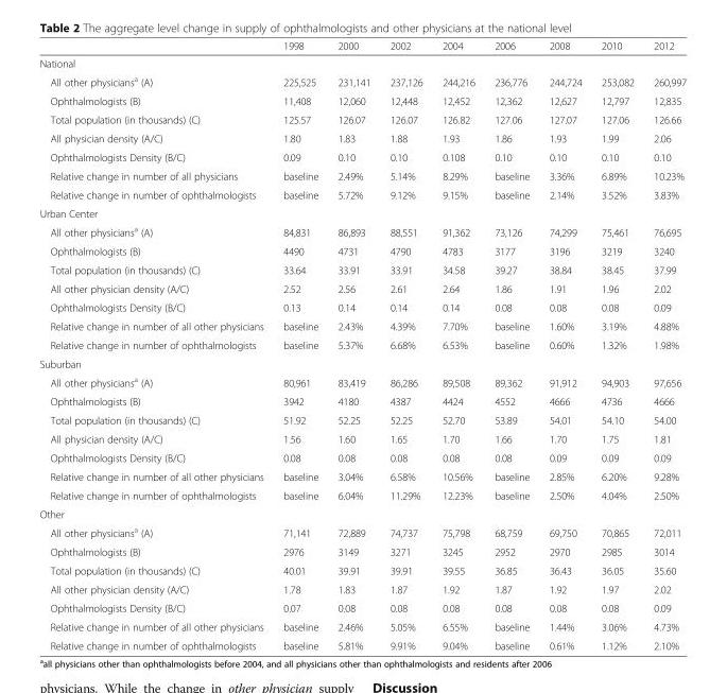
<table><thead><tr><td></td><td>1998</td><td>2000</td><td>2002</td><td>2004</td><td>2006</td><td>2008</td><td>2010</td><td>2012</td></tr></thead><tbody><tr><td colspan="9">National</td></tr><tr><td>All other physicians<sup>a</sup> (A)</td><td>225,525</td><td>231,141</td><td>237,126</td><td>244,216</td><td>236,776</td><td>244,724</td><td>253,082</td><td>260,997</td></tr><tr><td>Ophthalmologists (B)</td><td>11,408</td><td>12,060</td><td>12,448</td><td>12,452</td><td>12,362</td><td>12,627</td><td>12,797</td><td>12,835</td></tr><tr><td>Total population (in thousands) (C)</td><td>125.57</td><td>126.07</td><td>126.07</td><td>126.82</td><td>127.06</td><td>127.07</td><td>127.06</td><td>126.66</td></tr><tr><td>All physician density (A/C)</td><td>1.80</td><td>1.83</td><td>1.88</td><td>1.93</td><td>1.86</td><td>1.93</td><td>1.99</td><td>2.06</td></tr><tr><td>Ophthalmologists Density (B/C)</td><td>0.09</td><td>0.10</td><td>0.10</td><td>0.108</td><td>0.10</td><td>0.10</td><td>0.10</td><td>0.10</td></tr><tr><td>Relative change in number of all physicians</td><td>baseline</td><td>2.49%</td><td>5.14%</td><td>8.29%</td><td>baseline</td><td>3.36%</td><td>6.89%</td><td>10.23%</td></tr><tr><td>Relative change in number of ophthalmologists</td><td>baseline</td><td>5.72%</td><td>9.12%</td><td>9.15%</td><td>baseline</td><td>2.14%</td><td>3.52%</td><td>3.83%</td></tr><tr><td colspan="9">Urban Center</td></tr><tr><td>All other physicians<sup>a</sup> (A)</td><td>84,831</td><td>86,893</td><td>88,551</td><td>91,362</td><td>73,126</td><td>74,299</td><td>75,461</td><td>76,695</td></tr><tr><td>Ophthalmologists (B)</td><td>4490</td><td>4731</td><td>4790</td><td>4783</td><td>3177</td><td>3196</td><td>3219</td><td>3240</td></tr><tr><td>Total population (in thousands) (C)</td><td>33.64</td><td>33.91</td><td>33.91</td><td>34.58</td><td>39.27</td><td>38.84</td><td>38.45</td><td>37.99</td></tr><tr><td>All other physician density (A/C)</td><td>2.52</td><td>2.56</td><td>2.61</td><td>2.64</td><td>1.86</td><td>1.91</td><td>1.96</td><td>2.02</td></tr><tr><td>Ophthalmologists Density (B/C)</td><td>0.13</td><td>0.14</td><td>0.14</td><td>0.14</td><td>0.08</td><td>0.08</td><td>0.08</td><td>0.09</td></tr><tr><td>Relative change in number of all other physicians</td><td>baseline</td><td>2.43%</td><td>4.39%</td><td>7.70%</td><td>baseline</td><td>1.60%</td><td>3.19%</td><td>4.88%</td></tr><tr><td>Relative change in number of ophthalmologists</td><td>baseline</td><td>5.37%</td><td>6.68%</td><td>6.53%</td><td>baseline</td><td>0.60%</td><td>1.32%</td><td>1.98%</td></tr><tr><td colspan="9">Suburban</td></tr><tr><td>All other physicians<sup>a</sup> (A)</td><td>80,961</td><td>83,419</td><td>86,286</td><td>89,508</td><td>89,362</td><td>91,912</td><td>94,903</td><td>97,656</td></tr><tr><td>Ophthalmologists (B)</td><td>3942</td><td>4180</td><td>4387</td><td>4424</td><td>4552</td><td>4666</td><td>4736</td><td>4666</td></tr><tr><td>Total population (in thousands) (C)</td><td>51.92</td><td>52.25</td><td>52.25</td><td>52.70</td><td>53.89</td><td>54.01</td><td>54.10</td><td>54.00</td></tr><tr><td>All physician density (A/C)</td><td>1.56</td><td>1.60</td><td>1.65</td><td>1.70</td><td>1.66</td><td>1.70</td><td>1.75</td><td>1.81</td></tr><tr><td>Ophthalmologists Density (B/C)</td><td>0.08</td><td>0.08</td><td>0.08</td><td>0.08</td><td>0.08</td><td>0.09</td><td>0.09</td><td>0.09</td></tr><tr><td>Relative change in number of all other physicians</td><td>baseline</td><td>3.04%</td><td>6.58%</td><td>10.56%</td><td>baseline</td><td>2.85%</td><td>6.20%</td><td>9.28%</td></tr><tr><td>Relative change in number of ophthalmologists</td><td>baseline</td><td>6.04%</td><td>11.29%</td><td>12.23%</td><td>baseline</td><td>2.50%</td><td>4.04%</td><td>2.50%</td></tr><tr><td colspan="9">Other</td></tr><tr><td>All other physicians<sup>a</sup> (A)</td><td>71,141</td><td>72,889</td><td>74,737</td><td>75,798</td><td>68,759</td><td>69,750</td><td>70,865</td><td>72,011</td></tr><tr><td>Ophthalmologists (B)</td><td>2976</td><td>3149</td><td>3271</td><td>3245</td><td>2952</td><td>2970</td><td>2985</td><td>3014</td></tr><tr><td>Total population (in thousands) (C)</td><td>40.01</td><td>39.91</td><td>39.91</td><td>39.55</td><td>36.85</td><td>36.43</td><td>36.05</td><td>35.60</td></tr><tr><td>All other physician density (A/C)</td><td>1.78</td><td>1.83</td><td>1.87</td><td>1.92</td><td>1.87</td><td>1.92</td><td>1.97</td><td>2.02</td></tr><tr><td>Ophthalmologists Density (B/C)</td><td>0.07</td><td>0.08</td><td>0.08</td><td>0.08</td><td>0.08</td><td>0.08</td><td>0.08</td><td>0.09</td></tr><tr><td>Relative change in number of all other physicians</td><td>baseline</td><td>2.46%</td><td>5.05%</td><td>6.55%</td><td>baseline</td><td>1.44%</td><td>3.06%</td><td>4.73%</td></tr><tr><td>Relative change in number of ophthalmologists</td><td>baseline</td><td>5.81%</td><td>9.91%</td><td>9.04%</td><td>baseline</td><td>0.61%</td><td>1.12%</td><td>2.10%</td></tr></tbody></table>